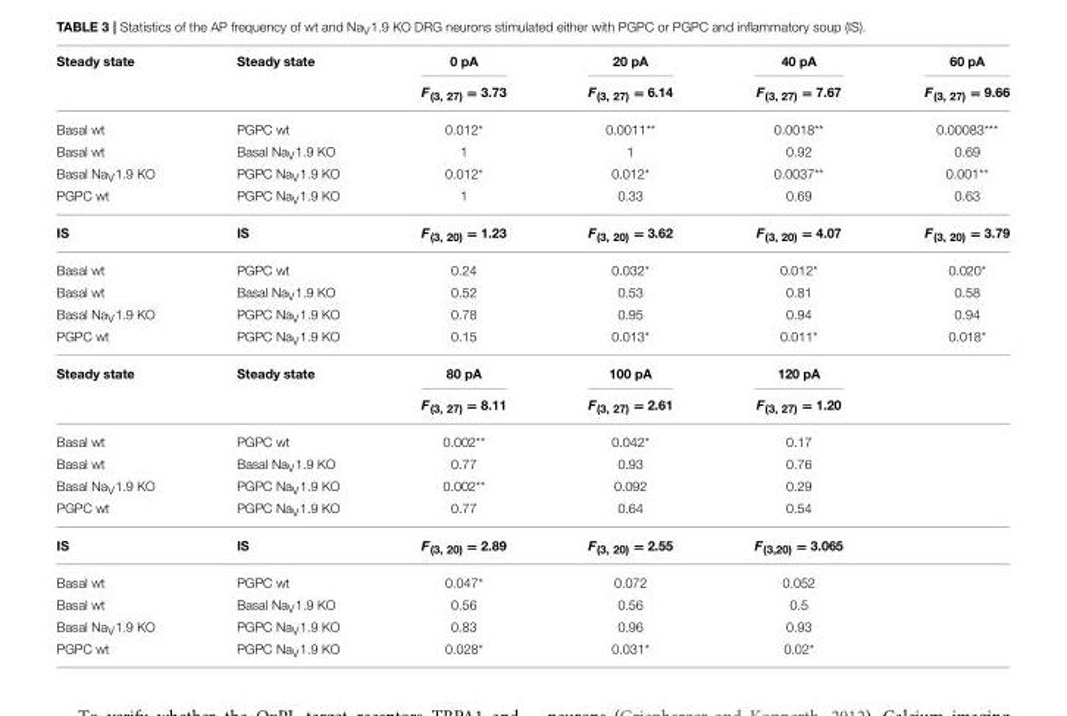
<table><thead><tr><td rowspan="2">Steady state</td><td rowspan="2">Steady state</td><td rowspan="2">0 pA F<sub>(3, 27)</sub> = 3.73</td><td rowspan="2">20 pA F<sub>(3, 27)</sub> = 6.14</td><td rowspan="2">40 pA F<sub>(3, 27)</sub> = 7.67</td><td rowspan="2">60 pA F<sub>(3, 27)</sub> = 9.66</td></tr><tr></tr></thead><tbody><tr><td>Basal wt</td><td>PGPC wt</td><td>0.012*</td><td>0.0011**</td><td>0.0018**</td><td>0.00083***</td></tr><tr><td>Basal wt</td><td>Basal Na<sub>V</sub>1.9 KO</td><td>1</td><td>1</td><td>0.92</td><td>0.69</td></tr><tr><td>Basal Na<sub>V</sub>1.9 KO</td><td>PGPC Na<sub>V</sub>1.9 KO</td><td>0.012*</td><td>0.012*</td><td>0.0037**</td><td>0.001**</td></tr><tr><td>PGPC wt</td><td>PGPC Na<sub>V</sub>1.9 KO</td><td>1</td><td>0.33</td><td>0.69</td><td>0.63</td></tr><tr><td>IS</td><td>IS</td><td>F<sub>(3, 20)</sub> = 1.23</td><td>F<sub>(3, 20)</sub> = 3.62</td><td>F<sub>(3, 20)</sub> = 4.07</td><td>F<sub>(3, 20)</sub> = 3.79</td></tr><tr><td>Basal wt</td><td>PGPC wt</td><td>0.24</td><td>0.032*</td><td>0.012*</td><td>0.020*</td></tr><tr><td>Basal wt</td><td>Basal Na<sub>V</sub>1.9 KO</td><td>0.52</td><td>0.53</td><td>0.81</td><td>0.58</td></tr><tr><td>Basal Na<sub>V</sub>1.9 KO</td><td>PGPC Na<sub>V</sub>1.9 KO</td><td>0.78</td><td>0.95</td><td>0.94</td><td>0.94</td></tr><tr><td>PGPC wt</td><td>PGPC Na<sub>V</sub>1.9 KO</td><td>0.15</td><td>0.013*</td><td>0.011*</td><td>0.018*</td></tr><tr><td rowspan="2">Steady state</td><td>Steady state</td><td>80 pA</td><td>100 pA</td><td>120 pA</td><td></td></tr><tr><td></td><td>F<sub>(3, 27)</sub> = 8.11</td><td>F<sub>(3, 27)</sub> = 2.61</td><td>F<sub>(3, 27)</sub> = 1.20</td><td></td></tr><tr><td>Basal wt</td><td>PGPC wt</td><td>0.002**</td><td>0.042*</td><td>0.17</td><td></td></tr><tr><td>Basal wt</td><td>Basal Na<sub>V</sub>1.9 KO</td><td>0.77</td><td>0.93</td><td>0.76</td><td></td></tr><tr><td>Basal Na<sub>V</sub>1.9 KO</td><td>PGPC Na<sub>V</sub>1.9 KO</td><td>0.002**</td><td>0.092</td><td>0.29</td><td></td></tr><tr><td>PGPC wt</td><td>PGPC Na<sub>V</sub>1.9 KO</td><td>0.77</td><td>0.64</td><td>0.54</td><td></td></tr><tr><td>IS</td><td>IS</td><td>F<sub>(3, 20)</sub> = 2.89</td><td>F<sub>(3, 20)</sub> = 2.55</td><td>F<sub>(3,20)</sub> = 3.065</td><td></td></tr><tr><td>Basal wt</td><td>PGPC wt</td><td>0.047*</td><td>0.072</td><td>0.052</td><td></td></tr><tr><td>Basal wt</td><td>Basal Na<sub>V</sub>1.9 KO</td><td>0.56</td><td>0.56</td><td>0.5</td><td></td></tr><tr><td>Basal Na<sub>V</sub>1.9 KO</td><td>PGPC Na<sub>V</sub>1.9 KO</td><td>0.83</td><td>0.96</td><td>0.93</td><td></td></tr><tr><td>PGPC wt</td><td>PGPC Na<sub>V</sub>1.9 KO</td><td>0.028*</td><td>0.031*</td><td>0.02*</td><td></td></tr></tbody></table>